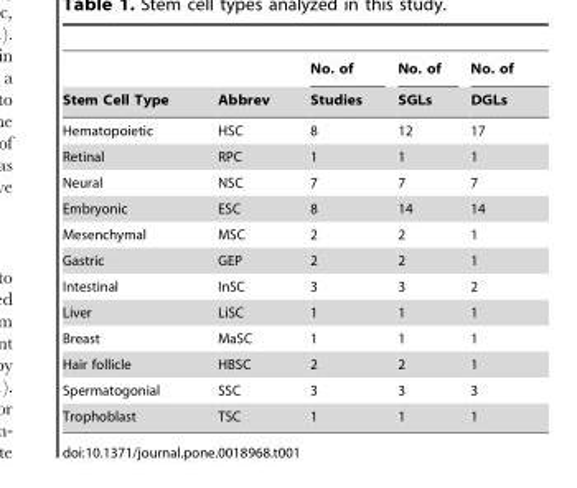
<table><thead><tr><td rowspan="2">Stem Cell Type</td><td rowspan="2">Abbrev</td><td rowspan="2">No. of Studies</td><td rowspan="2">No. of SGLs</td><td rowspan="2">No. of DGLs</td></tr><tr></tr></thead><tbody><tr><td>Hematopoietic</td><td>HSC</td><td>8</td><td>12</td><td>17</td></tr><tr><td>Retinal</td><td>RPC</td><td>1</td><td>1</td><td>1</td></tr><tr><td>Neural</td><td>NSC</td><td>7</td><td>7</td><td>7</td></tr><tr><td>Embryonic</td><td>ESC</td><td>8</td><td>14</td><td>14</td></tr><tr><td>Mesenchymal</td><td>MSC</td><td>2</td><td>2</td><td>1</td></tr><tr><td>Gastric</td><td>GEP</td><td>2</td><td>2</td><td>1</td></tr><tr><td>Intestinal</td><td>InSC</td><td>3</td><td>3</td><td>2</td></tr><tr><td>Liver</td><td>LiSC</td><td>1</td><td>1</td><td>1</td></tr><tr><td>Breast</td><td>MaSC</td><td>1</td><td>1</td><td>1</td></tr><tr><td>Hair follicle</td><td>HBSC</td><td>2</td><td>2</td><td>1</td></tr><tr><td>Spermatogonial</td><td>SSC</td><td>3</td><td>3</td><td>3</td></tr><tr><td>Trophoblast</td><td>TSC</td><td>1</td><td>1</td><td>1</td></tr></tbody></table>